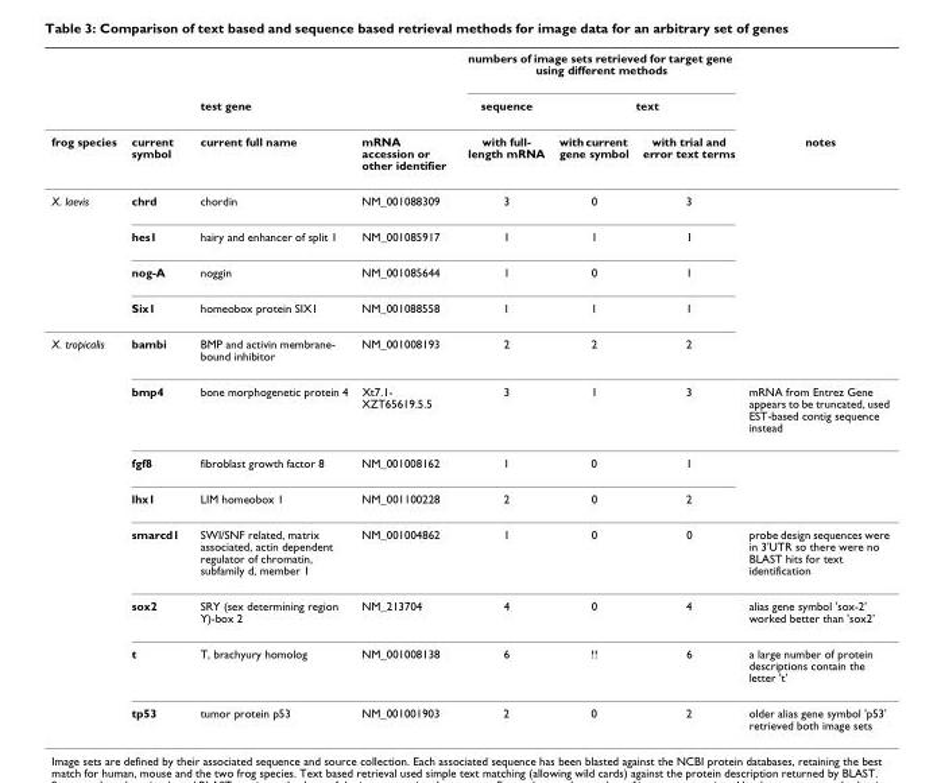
<table><thead><tr><td rowspan="3">frog species</td><td rowspan="3">current symbol</td><td rowspan="3">test gene current full name</td><td rowspan="3">mRNA accession or other identifier</td><td colspan="3">numbers of image sets retrieved for target gene using different methods</td><td rowspan="3">notes</td></tr><tr><td rowspan="2">sequence with full- length mRNA</td><td colspan="2">text</td></tr><tr><td>with current gene symbol</td><td>with trial and error text terms</td></tr></thead><tbody><tr><td rowspan="4">X. laevis</td><td>chrd</td><td>chordin</td><td>NM_001088309</td><td>3</td><td>0</td><td>3</td><td></td></tr><tr><td>hes1</td><td>hairy and enhancer of split 1</td><td>NM_001085917</td><td>1</td><td>1</td><td>1</td><td></td></tr><tr><td>nog-A</td><td>noggin</td><td>NM_001085644</td><td>1</td><td>0</td><td>1</td><td></td></tr><tr><td>Six1</td><td>homeobox protein SIX1</td><td>NM_001088558</td><td>1</td><td>1</td><td>1</td><td></td></tr><tr><td rowspan="8">X. tropicalis</td><td>bambi</td><td>BMP and activin membrane- bound inhibitor</td><td>NM_001008193</td><td>2</td><td>2</td><td>2</td><td></td></tr><tr><td>bmp4</td><td>bone morphogenetic protein 4</td><td>Xt7.1- XZT65619.5.5</td><td>3</td><td>1</td><td>3</td><td>mRNA from Entrez Gene appears to be truncated, used EST-based contig sequence instead</td></tr><tr><td>fgf8</td><td>fibroblast growth factor 8</td><td>NM_001008162</td><td>1</td><td>0</td><td>1</td><td></td></tr><tr><td>lhx1</td><td>LIM homeobox 1</td><td>NM_001100228</td><td>2</td><td>0</td><td>2</td><td></td></tr><tr><td>smarcd1</td><td>SWI/SNF related, matrix associated, actin dependent regulator of chromatin, subfamily d, member 1</td><td>NM_001004862</td><td>1</td><td>0</td><td>0</td><td>probe design sequences were in 3&#x27;UTR so there were no BLAST hits for text identification</td></tr><tr><td>sox2</td><td>SRY (sex determining region Y)-box 2</td><td>NM_213704</td><td>4</td><td>0</td><td>4</td><td>alias gene symbol &#x27;sox-2&#x27; worked better than &#x27;sox2&#x27;</td></tr><tr><td>t</td><td>T, brachyury homolog</td><td>NM_001008138</td><td>6</td><td>!!</td><td>6</td><td>a large number of protein descriptions contain the letter &#x27;t&#x27;</td></tr><tr><td>tp53</td><td>tumor protein p53</td><td>NM_001001903</td><td>2</td><td>0</td><td>2</td><td>older alias gene symbol &#x27;p53&#x27; retrieved both image sets</td></tr></tbody></table>